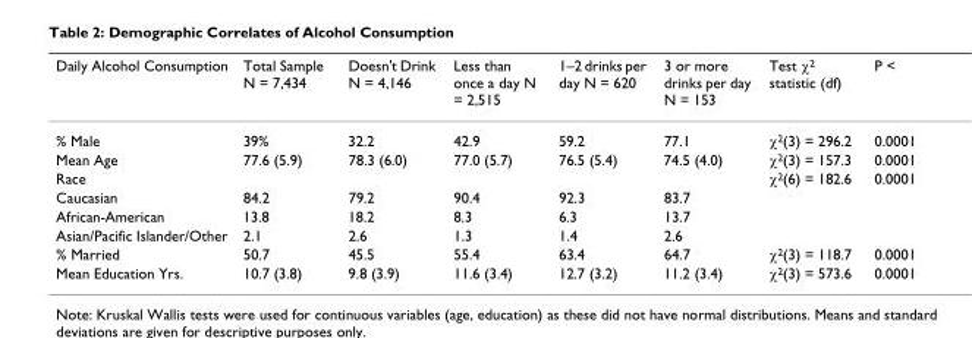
<table><thead><tr><td>Daily Alcohol Consumption</td><td>Total Sample N = 7,434</td><td>Doesn&#x27;t Drink N = 4,146</td><td>Less than once a day N = 2,515</td><td>1–2 drinks per day N = 620</td><td>3 or more drinks per day N = 153</td><td>Test χ<sup>2</sup> statistic (df)</td><td>P &lt;</td></tr></thead><tbody><tr><td>% Male</td><td>39%</td><td>32.2</td><td>42.9</td><td>59.2</td><td>77.1</td><td>χ<sup>2</sup>(3) = 296.2</td><td>0.0001</td></tr><tr><td>Mean Age</td><td>77.6 (5.9)</td><td>78.3 (6.0)</td><td>77.0 (5.7)</td><td>76.5 (5.4)</td><td>74.5 (4.0)</td><td>χ<sup>2</sup>(3) = 157.3</td><td>0.0001</td></tr><tr><td>Race</td><td></td><td></td><td></td><td></td><td></td><td>χ<sup>2</sup>(6) = 182.6</td><td>0.0001</td></tr><tr><td>Caucasian</td><td>84.2</td><td>79.2</td><td>90.4</td><td>92.3</td><td>83.7</td><td></td><td></td></tr><tr><td>African-American</td><td>13.8</td><td>18.2</td><td>8.3</td><td>6.3</td><td>13.7</td><td></td><td></td></tr><tr><td>Asian/Pacific Islander/Other</td><td>2.1</td><td>2.6</td><td>1.3</td><td>1.4</td><td>2.6</td><td></td><td></td></tr><tr><td>% Married</td><td>50.7</td><td>45.5</td><td>55.4</td><td>63.4</td><td>64.7</td><td>χ<sup>2</sup>(3) = 118.7</td><td>0.0001</td></tr><tr><td>Mean Education Yrs.</td><td>10.7 (3.8)</td><td>9.8 (3.9)</td><td>11.6 (3.4)</td><td>12.7 (3.2)</td><td>11.2 (3.4)</td><td>χ<sup>2</sup>(3) = 573.6</td><td>0.0001</td></tr></tbody></table>